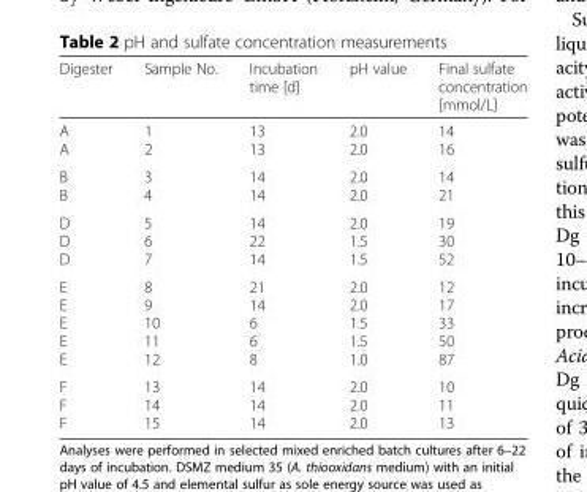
<table><thead><tr><td>Digester</td><td>Sample No.</td><td>Incubation time [d]</td><td>pH value</td><td>Final sulfate concentration [mmol/L]</td></tr></thead><tbody><tr><td>A A</td><td>1 2</td><td>13 13</td><td>2.0 2.0</td><td>14 16</td></tr><tr><td>B B</td><td>3 4</td><td>14 14</td><td>2.0 2.0</td><td>14 21</td></tr><tr><td>D D D</td><td>5 6 7</td><td>14 22 14</td><td>2.0 1.5 1.5</td><td>19 30 52</td></tr><tr><td>E E E E E</td><td>8 9 10 11 12</td><td>21 14 6 6 8</td><td>2.0 2.0 1.5 1.5 1.0</td><td>12 17 33 50 87</td></tr><tr><td>F F F</td><td>13 14 15</td><td>14 14 14</td><td>2.0 2.0 2.0</td><td>10 11 13</td></tr></tbody></table>